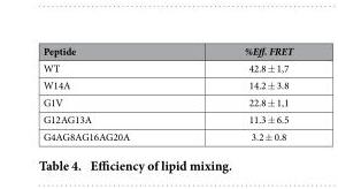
<table><thead><tr><td>Peptide</td><td>%Eff. FRET</td></tr></thead><tbody><tr><td>WT</td><td>42.8 ± 1,7</td></tr><tr><td>W14A</td><td>14.2 ± 3.8</td></tr><tr><td>G1V</td><td>22.8 ± 1,1</td></tr><tr><td>G12AG13A</td><td>11.3 ± 6.5</td></tr><tr><td>G4AG8AG16AG20A</td><td>3.2 ± 0.8</td></tr></tbody></table>